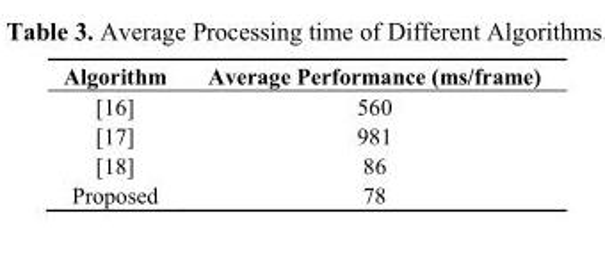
<table><thead><tr><td>Algorithm</td><td>Average Performance (ms/frame)</td></tr></thead><tbody><tr><td>[16]</td><td>560</td></tr><tr><td>[17]</td><td>981</td></tr><tr><td>[18]</td><td>86</td></tr><tr><td>Proposed</td><td>78</td></tr></tbody></table>